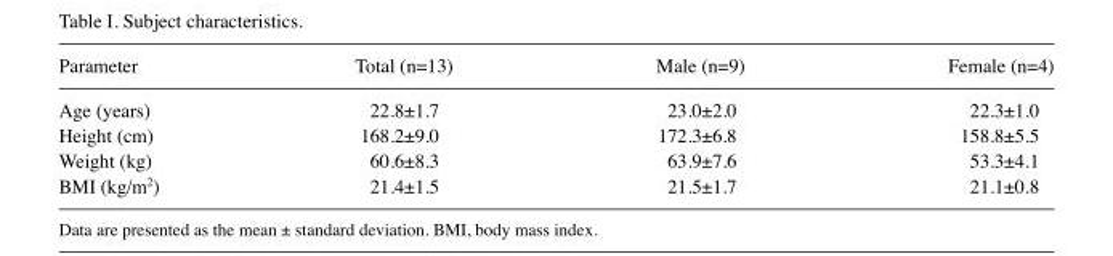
<table><thead><tr><td>Parameter</td><td>Total (n=13)</td><td>Male (n=9)</td><td>Female (n=4)</td></tr></thead><tbody><tr><td>Age (years)</td><td>22.8±1.7</td><td>23.0±2.0</td><td>22.3±1.0</td></tr><tr><td>Height (cm)</td><td>168.2±9.0</td><td>172.3±6.8</td><td>158.8±5.5</td></tr><tr><td>Weight (kg)</td><td>60.6±8.3</td><td>63.9±7.6</td><td>53.3±4.1</td></tr><tr><td>BMI (kg/m<sup>2</sup>)</td><td>21.4±1.5</td><td>21.5±1.7</td><td>21.1±0.8</td></tr></tbody></table>